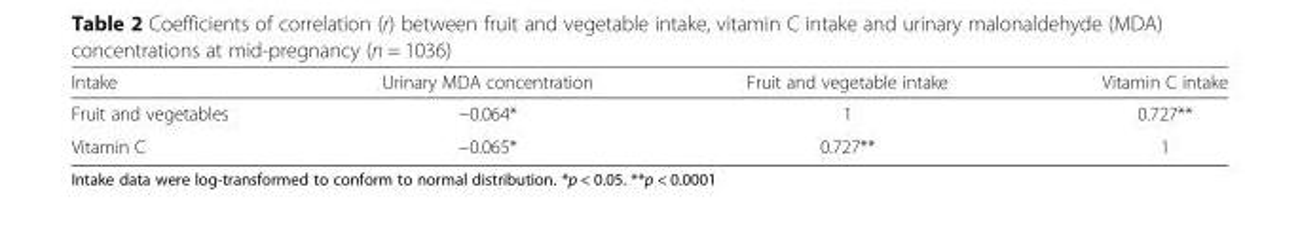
<table><thead><tr><td>Intake</td><td>Urinary MDA concentration</td><td>Fruit and vegetable intake</td><td>Vitamin C intake</td></tr></thead><tbody><tr><td>Fruit and vegetables</td><td>−0.064*</td><td>1</td><td>0.727**</td></tr><tr><td>Vitamin C</td><td>−0.065*</td><td>0.727**</td><td>1</td></tr></tbody></table>